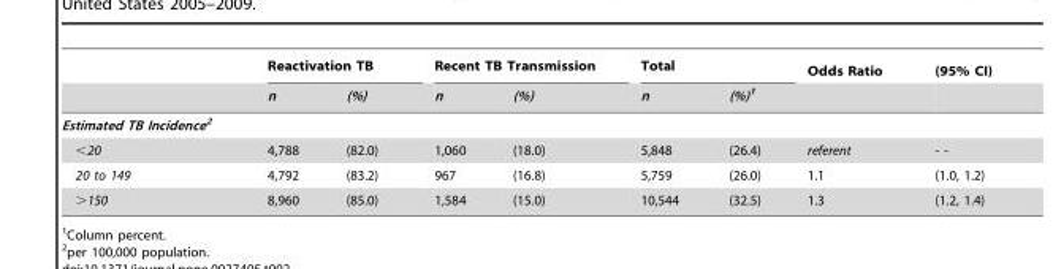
<table><thead><tr><td rowspan="2"></td><td colspan="2">Reactivation TB</td><td colspan="2">Recent TB Transmission</td><td colspan="2">Total</td><td rowspan="2">Odds Ratio</td><td rowspan="2">(95% CI)</td></tr><tr><td>n</td><td>(%)</td><td>n</td><td>(%)</td><td>n</td><td>(%)1</td></tr></thead><tbody><tr><td colspan="9">Estimated TB Incidence2</td></tr><tr><td>&lt;20</td><td>4,788</td><td>(82.0)</td><td>1,060</td><td>(18.0)</td><td>5,848</td><td>(26.4)</td><td>referent</td><td>- -</td></tr><tr><td>20 to 149</td><td>4,792</td><td>(83.2)</td><td>967</td><td>(16.8)</td><td>5,759</td><td>(26.0)</td><td>1.1</td><td>(1.0, 1.2)</td></tr><tr><td>&gt;150</td><td>8,960</td><td>(85.0)</td><td>1,584</td><td>(15.0)</td><td>10,544</td><td>(32.5)</td><td>1.3</td><td>(1.2, 1.4)</td></tr></tbody></table>